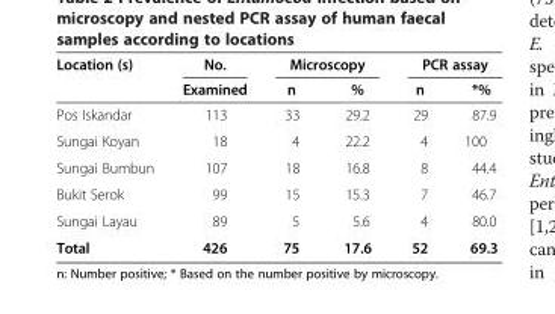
<table><thead><tr><td rowspan="2">Location (s)</td><td rowspan="2">No. Examined</td><td colspan="2">Microscopy</td><td colspan="2">PCR assay</td></tr><tr><td>n</td><td>%</td><td>n</td><td>*%</td></tr></thead><tbody><tr><td>Pos Iskandar</td><td>113</td><td>33</td><td>29.2</td><td>29</td><td>87.9</td></tr><tr><td>Sungai Koyan</td><td>18</td><td>4</td><td>22.2</td><td>4</td><td>100</td></tr><tr><td>Sungai Bumbun</td><td>107</td><td>18</td><td>16.8</td><td>8</td><td>44.4</td></tr><tr><td>Bukit Serok</td><td>99</td><td>15</td><td>15.3</td><td>7</td><td>46.7</td></tr><tr><td>Sungai Layau</td><td>89</td><td>5</td><td>5.6</td><td>4</td><td>80.0</td></tr><tr><td>Total</td><td>426</td><td>75</td><td>17.6</td><td>52</td><td>69.3</td></tr></tbody></table>